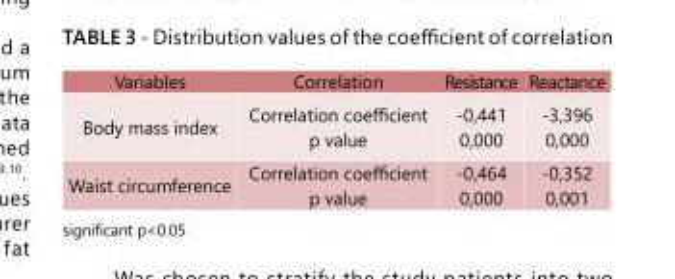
<table><tbody><tr><td>Variables</td><td>Correlation</td><td>Resistance</td><td>Reactance</td></tr><tr><td>Body mass index</td><td>Correlation coefficient p value</td><td>-0,441 0,000</td><td>-3,396 0,000</td></tr><tr><td>Waist circumference</td><td>Correlation coefficient p value</td><td>-0,464 0,000</td><td>-0,352 0,001</td></tr></tbody></table>